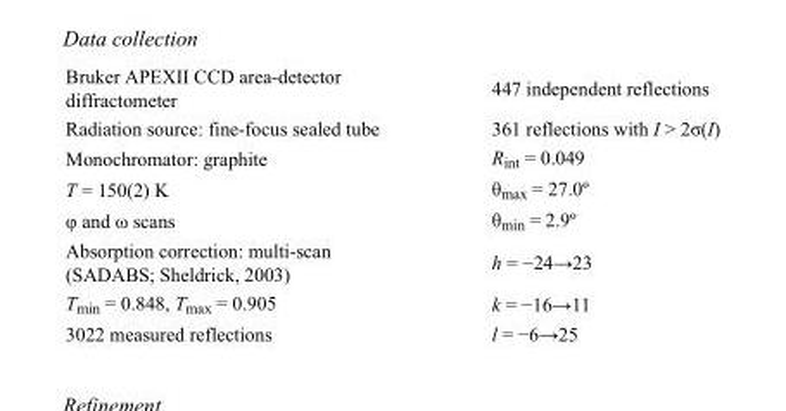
<table><tbody><tr><td>Bruker APEXII CCD area-detector diffractometer</td><td>447 independent reflections</td></tr><tr><td>Radiation source: fine-focus sealed tube</td><td>361 reflections with I &gt; 2σ(I)</td></tr><tr><td>Monochromator: graphite</td><td>R<sub>int</sub> = 0.049</td></tr><tr><td>T = 150(2) K</td><td>θ<sub>max</sub> = 27.0º</td></tr><tr><td>φ and ω scans</td><td>θ<sub>min</sub> = 2.9º</td></tr><tr><td>Absorption correction: multi-scan (SADABS; Sheldrick, 2003)</td><td>h = −24→23</td></tr><tr><td>T<sub>min</sub> = 0.848, T<sub>max</sub> = 0.905</td><td>k = −16→11</td></tr><tr><td>3022 measured reflections</td><td>l = −6→25</td></tr></tbody></table>